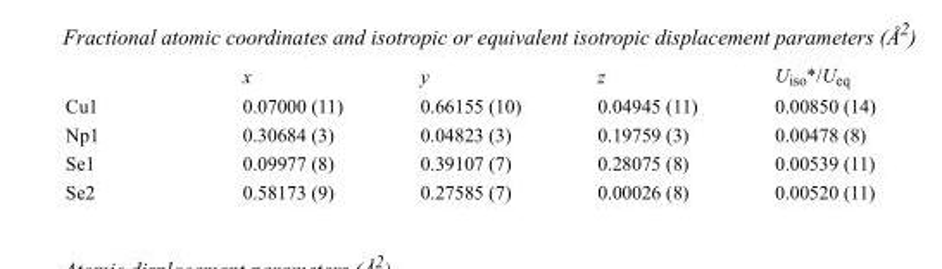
<table><thead><tr><td></td><td>x</td><td>y</td><td>z</td><td>U<sub>iso</sub>*/U<sub>eq</sub></td></tr></thead><tbody><tr><td>Cu1</td><td>0.07000 (11)</td><td>0.66155 (10)</td><td>0.04945 (11)</td><td>0.00850 (14)</td></tr><tr><td>Np1</td><td>0.30684 (3)</td><td>0.04823 (3)</td><td>0.19759 (3)</td><td>0.00478 (8)</td></tr><tr><td>Se1</td><td>0.09977 (8)</td><td>0.39107 (7)</td><td>0.28075 (8)</td><td>0.00539 (11)</td></tr><tr><td>Se2</td><td>0.58173 (9)</td><td>0.27585 (7)</td><td>0.00026 (8)</td><td>0.00520 (11)</td></tr></tbody></table>